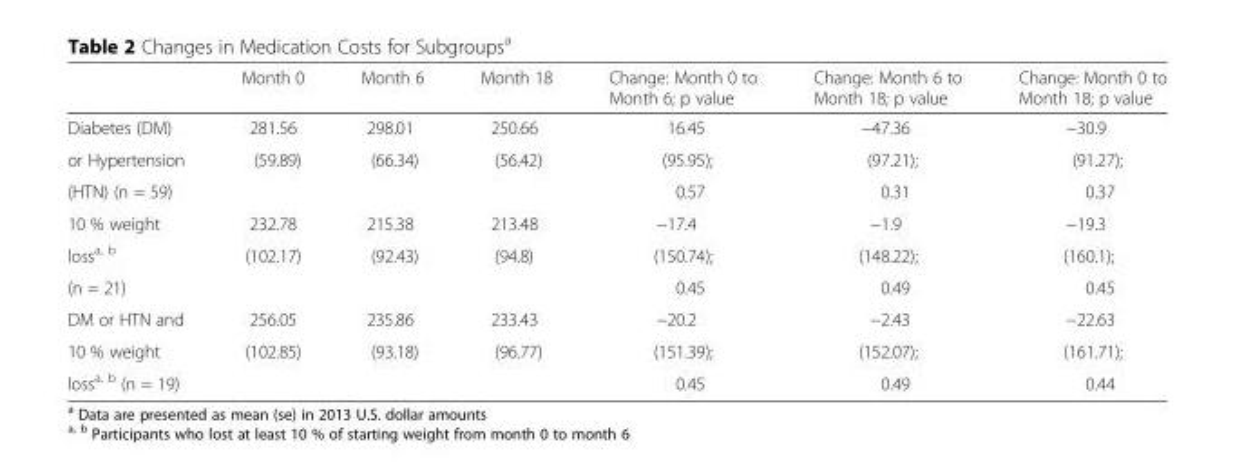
<table><thead><tr><td></td><td>Month 0</td><td>Month 6</td><td>Month 18</td><td>Change: Month 0 to Month 6; p value</td><td>Change: Month 6 to Month 18; p value</td><td>Change: Month 0 to Month 18; p value</td></tr></thead><tbody><tr><td>Diabetes (DM)</td><td>281.56</td><td>298.01</td><td>250.66</td><td>16.45</td><td>−47.36</td><td>−30.9</td></tr><tr><td>or Hypertension</td><td>(59.89)</td><td>(66.34)</td><td>(56.42)</td><td>(95.95);</td><td>(97.21);</td><td>(91.27);</td></tr><tr><td>(HTN) (n = 59)</td><td></td><td></td><td></td><td>0.57</td><td>0.31</td><td>0.37</td></tr><tr><td>10 % weight</td><td>232.78</td><td>215.38</td><td>213.48</td><td>−17.4</td><td>−1.9</td><td>−19.3</td></tr><tr><td>loss<sup>a, b</sup></td><td>(102.17)</td><td>(92.43)</td><td>(94.8)</td><td>(150.74);</td><td>(148.22);</td><td>(160.1);</td></tr><tr><td>(n = 21)</td><td></td><td></td><td></td><td>0.45</td><td>0.49</td><td>0.45</td></tr><tr><td>DM or HTN and</td><td>256.05</td><td>235.86</td><td>233.43</td><td>−20.2</td><td>−2.43</td><td>−22.63</td></tr><tr><td>10 % weight</td><td>(102.85)</td><td>(93.18)</td><td>(96.77)</td><td>(151.39);</td><td>(152.07);</td><td>(161.71);</td></tr><tr><td>loss<sup>a, b</sup> (n = 19)</td><td></td><td></td><td></td><td>0.45</td><td>0.49</td><td>0.44</td></tr></tbody></table>